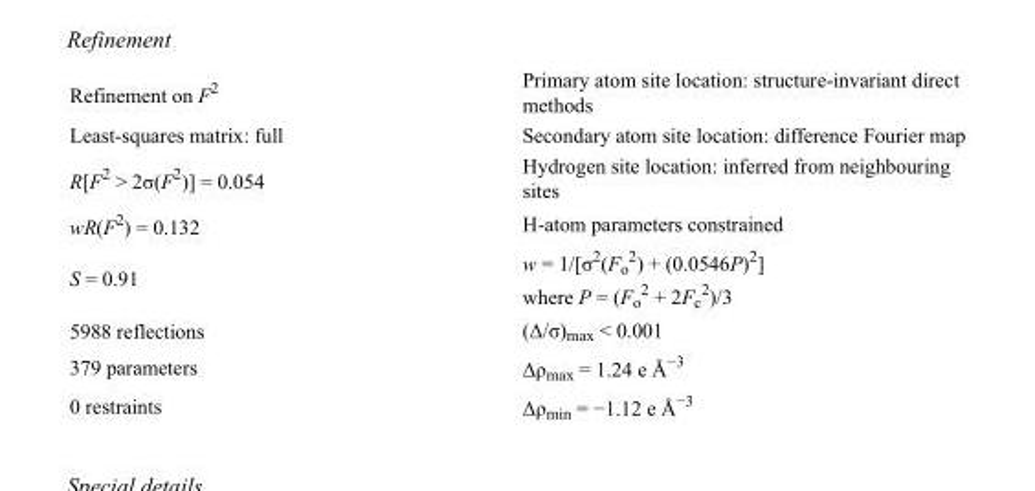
<table><tbody><tr><td>Refinement on F<sup>2</sup></td><td>Primary atom site location: structure-invariant direct methods</td></tr><tr><td>Least-squares matrix: full</td><td>Secondary atom site location: difference Fourier map</td></tr><tr><td>R[F<sup>2</sup> &gt; 2σ(F<sup>2</sup>)] = 0.054</td><td>Hydrogen site location: inferred from neighbouring sites</td></tr><tr><td>wR(F<sup>2</sup>) = 0.132</td><td>H-atom parameters constrained</td></tr><tr><td>S = 0.91</td><td>w = 1/[σ<sup>2</sup>(F<sub>o</sub> <sup>2</sup>) + (0.0546P)<sup>2</sup>] where P = (F<sub>o</sub> <sup>2</sup> + 2F<sub>c</sub> <sup>2</sup>)/3</td></tr><tr><td>5988 reflections</td><td>(Δ/σ)<sub>max</sub> &lt; 0.001</td></tr><tr><td>379 parameters</td><td>Δρ<sub>max</sub> = 1.24 e Å<sup>−3</sup></td></tr><tr><td>0 restraints</td><td>Δρ<sub>min</sub> = −1.12 e Å<sup>−3</sup></td></tr></tbody></table>